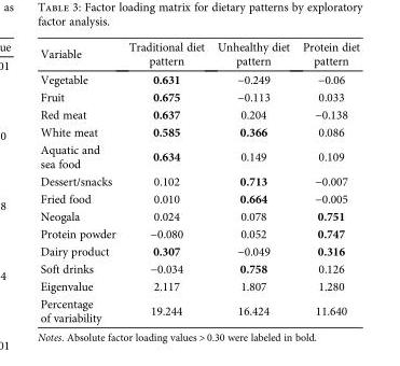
<table><thead><tr><td>Variable</td><td>Traditional diet pattern</td><td>Unhealthy diet pattern</td><td>Protein diet pattern</td></tr></thead><tbody><tr><td>Vegetable</td><td>0.631</td><td>−0.249</td><td>−0.06</td></tr><tr><td>Fruit</td><td>0.675</td><td>−0.113</td><td>0.033</td></tr><tr><td>Red meat</td><td>0.637</td><td>0.204</td><td>−0.138</td></tr><tr><td>White meat</td><td>0.585</td><td>0.366</td><td>0.086</td></tr><tr><td>Aquatic and sea food</td><td>0.634</td><td>0.149</td><td>0.109</td></tr><tr><td>Dessert/snacks</td><td>0.102</td><td>0.713</td><td>−0.007</td></tr><tr><td>Fried food</td><td>0.010</td><td>0.664</td><td>−0.005</td></tr><tr><td>Neogala</td><td>0.024</td><td>0.078</td><td>0.751</td></tr><tr><td>Protein powder</td><td>−0.080</td><td>0.052</td><td>0.747</td></tr><tr><td>Dairy product</td><td>0.307</td><td>−0.049</td><td>0.316</td></tr><tr><td>Soft drinks</td><td>−0.034</td><td>0.758</td><td>0.126</td></tr><tr><td>Eigenvalue</td><td>2.117</td><td>1.807</td><td>1.280</td></tr><tr><td>Percentage of variability</td><td>19.244</td><td>16.424</td><td>11.640</td></tr></tbody></table>